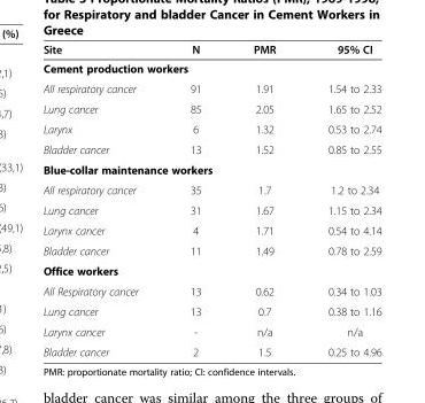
<table><thead><tr><td>Site</td><td>N</td><td>PMR</td><td>95% CI</td></tr></thead><tbody><tr><td colspan="4">Cement production workers</td></tr><tr><td>All respiratory cancer</td><td>91</td><td>1.91</td><td>1.54 to 2.33</td></tr><tr><td>Lung cancer</td><td>85</td><td>2.05</td><td>1.65 to 2.52</td></tr><tr><td>Larynx</td><td>6</td><td>1.32</td><td>0.53 to 2.74</td></tr><tr><td>Bladder cancer</td><td>13</td><td>1.52</td><td>0.85 to 2.55</td></tr><tr><td colspan="4">Blue-collar maintenance workers</td></tr><tr><td>All respiratory cancer</td><td>35</td><td>1.7</td><td>1.2 to 2.34</td></tr><tr><td>Lung cancer</td><td>31</td><td>1.67</td><td>1.15 to 2.34</td></tr><tr><td>Larynx cancer</td><td>4</td><td>1.71</td><td>0.54 to 4.14</td></tr><tr><td>Bladder cancer</td><td>11</td><td>1.49</td><td>0.78 to 2.59</td></tr><tr><td colspan="4">Office workers</td></tr><tr><td>All Respiratory cancer</td><td>13</td><td>0.62</td><td>0.34 to 1.03</td></tr><tr><td>Lung cancer</td><td>13</td><td>0.7</td><td>0.38 to 1.16</td></tr><tr><td>Larynx cancer</td><td>-</td><td>n/a</td><td>n/a</td></tr><tr><td>Bladder cancer</td><td>2</td><td>1.5</td><td>0.25 to 4.96</td></tr></tbody></table>